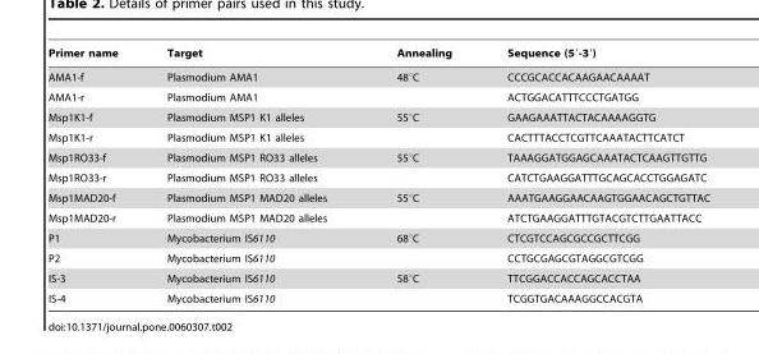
<table><thead><tr><td>Primer name</td><td>Target</td><td>Annealing</td><td>Sequence (5′-3′)</td></tr></thead><tbody><tr><td>AMA1-f</td><td>Plasmodium AMA1</td><td>48°C</td><td>CCCGCACCACAAGAACAAAAT</td></tr><tr><td>AMA1-r</td><td>Plasmodium AMA1</td><td></td><td>ACTGGACATTTCCCTGATGG</td></tr><tr><td>Msp1K1-f</td><td>Plasmodium MSP1 K1 alleles</td><td>55°C</td><td>GAAGAAATTACTACAAAAGGTG</td></tr><tr><td>Msp1K1-r</td><td>Plasmodium MSP1 K1 alleles</td><td></td><td>CACTTTACCTCGTTCAAATACTTCATCT</td></tr><tr><td>Msp1RO33-f</td><td>Plasmodium MSP1 RO33 alleles</td><td>55°C</td><td>TAAAGGATGGAGCAAATACTCAAGTTGTTG</td></tr><tr><td>Msp1RO33-r</td><td>Plasmodium MSP1 RO33 alleles</td><td></td><td>CATCTGAAGGATTTGCAGCACCTGGAGATC</td></tr><tr><td>Msp1MAD20-f</td><td>Plasmodium MSP1 MAD20 alleles</td><td>55°C</td><td>AAATGAAGGAACAAGTGGAACAGCTGTTAC</td></tr><tr><td>Msp1MAD20-r</td><td>Plasmodium MSP1 MAD20 alleles</td><td></td><td>ATCTGAAGGATTTGTACGTCTTGAATTACC</td></tr><tr><td>P1</td><td>Mycobacterium IS6110</td><td>68°C</td><td>CTCGTCCAGCGCCGCTTCGG</td></tr><tr><td>P2</td><td>Mycobacterium IS6110</td><td></td><td>CCTGCGAGCGTAGGCGTCGG</td></tr><tr><td>IS-3</td><td>Mycobacterium IS6110</td><td>58°C</td><td>TTCGGACCACCAGCACCTAA</td></tr><tr><td>IS-4</td><td>Mycobacterium IS6110</td><td></td><td>TCGGTGACAAAGGCCACGTA</td></tr></tbody></table>